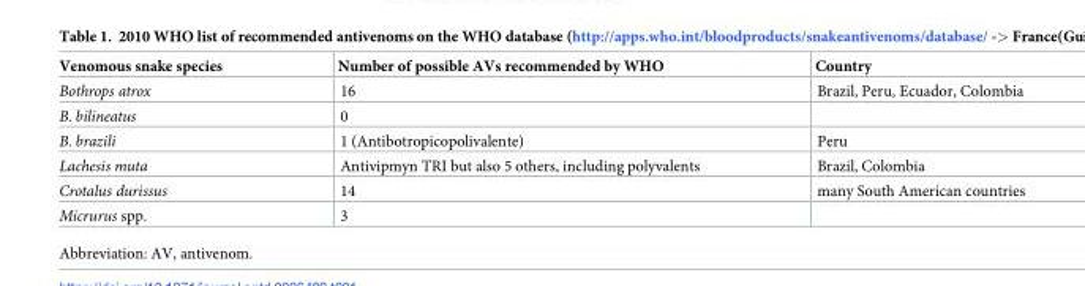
<table><thead><tr><td>Venomous snake species</td><td>Number of possible AVs recommended by WHO</td><td>Country</td></tr></thead><tbody><tr><td>Bothrops atrox</td><td>16</td><td>Brazil, Peru, Ecuador, Colombia</td></tr><tr><td>B. bilineatus</td><td>0</td><td></td></tr><tr><td>B. brazili</td><td>1 (Antibotropicopolivalente)</td><td>Peru</td></tr><tr><td>Lachesis muta</td><td>Antivipmyn TRI but also 5 others, including polyvalents</td><td>Brazil, Colombia</td></tr><tr><td>Crotalus durissus</td><td>14</td><td>many South American countries</td></tr><tr><td>Micrurus spp.</td><td>3</td><td></td></tr></tbody></table>